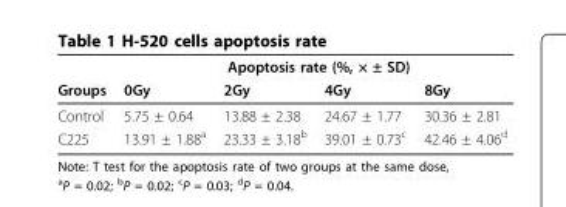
<table><thead><tr><td rowspan="2">Groups</td><td colspan="4">Apoptosis rate (%, × ± SD)</td></tr><tr><td>0Gy</td><td>2Gy</td><td>4Gy</td><td>8Gy</td></tr></thead><tbody><tr><td>Control</td><td>5.75 ± 0.64</td><td>13.88 ± 2.38</td><td>24.67 ± 1.77</td><td>30.36 ± 2.81</td></tr><tr><td>C225</td><td>13.91 ± 1.88<sup>a</sup></td><td>23.33 ± 3.18<sup>b</sup></td><td>39.01 ± 0.73<sup>c</sup></td><td>42.46 ± 4.06<sup>d</sup></td></tr></tbody></table>